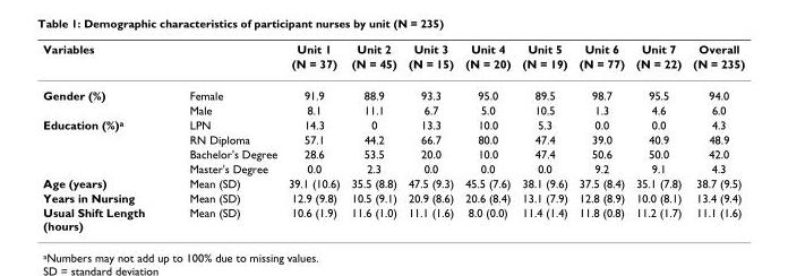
<table><thead><tr><td colspan="2">Variables</td><td rowspan="2">Unit 1 (N = 37)</td><td rowspan="2">Unit 2 (N = 45)</td><td rowspan="2">Unit 3 (N = 15)</td><td rowspan="2">Unit 4 (N = 20)</td><td rowspan="2">Unit 5 (N = 19)</td><td rowspan="2">Unit 6 (N = 77)</td><td rowspan="2">Unit 7 (N = 22)</td><td rowspan="2">Overall (N = 235)</td></tr><tr><td></td><td></td></tr></thead><tbody><tr><td rowspan="2">Gender (%)</td><td>Female</td><td>91.9</td><td>88.9</td><td>93.3</td><td>95.0</td><td>89.5</td><td>98.7</td><td>95.5</td><td>94.0</td></tr><tr><td>Male</td><td>8.1</td><td>11.1</td><td>6.7</td><td>5.0</td><td>10.5</td><td>1.3</td><td>4.6</td><td>6.0</td></tr><tr><td rowspan="4">Education (%)<sup>a</sup></td><td>LPN</td><td>14.3</td><td>0</td><td>13.3</td><td>10.0</td><td>5.3</td><td>0.0</td><td>0.0</td><td>4.3</td></tr><tr><td>RN Diploma</td><td>57.1</td><td>44.2</td><td>66.7</td><td>80.0</td><td>47.4</td><td>39.0</td><td>40.9</td><td>48.9</td></tr><tr><td>Bachelor&#x27;s Degree</td><td>28.6</td><td>53.5</td><td>20.0</td><td>10.0</td><td>47.4</td><td>50.6</td><td>50.0</td><td>42.0</td></tr><tr><td>Master&#x27;s Degree</td><td>0.0</td><td>2.3</td><td>0.0</td><td>0.0</td><td>0.0</td><td>9.2</td><td>9.1</td><td>4.3</td></tr><tr><td>Age (years)</td><td>Mean (SD)</td><td>39.1 (10.6)</td><td>35.5 (8.8)</td><td>47.5 (9.3)</td><td>45.5 (7.6)</td><td>38.1 (9.6)</td><td>37.5 (8.4)</td><td>35.1 (7.8)</td><td>38.7 (9.5)</td></tr><tr><td>Years in Nursing</td><td>Mean (SD)</td><td>12.9 (9.8)</td><td>10.5 (9.1)</td><td>20.9 (8.6)</td><td>20.6 (8.4)</td><td>13.1 (7.9)</td><td>12.8 (8.9)</td><td>10.0 (8.1)</td><td>13.4 (9.4)</td></tr><tr><td>Usual Shift Length (hours)</td><td>Mean (SD)</td><td>10.6 (1.9)</td><td>11.6 (1.0)</td><td>11.1 (1.6)</td><td>8.0 (0.0)</td><td>11.4 (1.4)</td><td>11.8 (0.8)</td><td>11.2 (1.7)</td><td>11.1 (1.6)</td></tr></tbody></table>